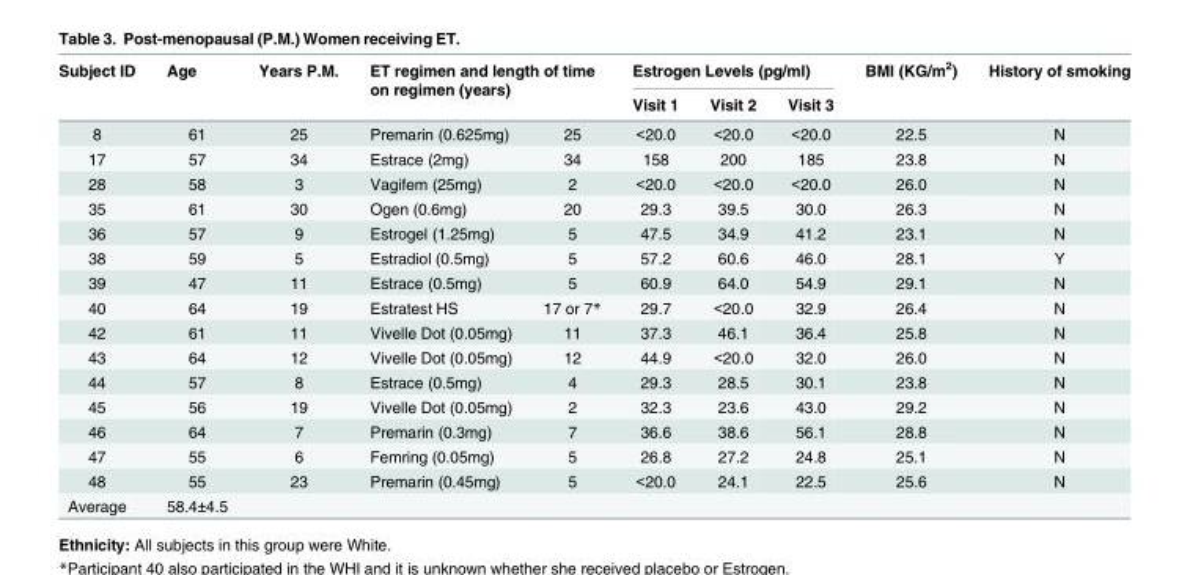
<table><thead><tr><td rowspan="3">Subject ID 8</td><td rowspan="3">Age 61</td><td rowspan="3">Years P.M. 25</td><td rowspan="2" colspan="2">ET regimen and length of time on regimen (years)</td><td colspan="3">Estrogen Levels (pg/ml)</td><td rowspan="3">BMI (KG/m<sup>2</sup>) 22.5</td><td rowspan="3">History of smoking N</td></tr><tr><td rowspan="2">Visit 1 &lt;20.0</td><td rowspan="2">Visit 2 &lt;20.0</td><td rowspan="2">Visit 3 &lt;20.0</td></tr><tr><td>Premarin (0.625mg)</td><td>25</td></tr></thead><tbody><tr><td>17</td><td>57</td><td>34</td><td>Estrace (2mg)</td><td>34</td><td>158</td><td>200</td><td>185</td><td>23.8</td><td>N</td></tr><tr><td>28</td><td>58</td><td>3</td><td>Vagifem (25mg)</td><td>2</td><td>&lt;20.0</td><td>&lt;20.0</td><td>&lt;20.0</td><td>26.0</td><td>N</td></tr><tr><td>35</td><td>61</td><td>30</td><td>Ogen (0.6mg)</td><td>20</td><td>29.3</td><td>39.5</td><td>30.0</td><td>26.3</td><td>N</td></tr><tr><td>36</td><td>57</td><td>9</td><td>Estrogel (1.25mg)</td><td>5</td><td>47.5</td><td>34.9</td><td>41.2</td><td>23.1</td><td>N</td></tr><tr><td>38</td><td>59</td><td>5</td><td>Estradiol (0.5mg)</td><td>5</td><td>57.2</td><td>60.6</td><td>46.0</td><td>28.1</td><td>Y</td></tr><tr><td>39</td><td>47</td><td>11</td><td>Estrace (0.5mg)</td><td>5</td><td>60.9</td><td>64.0</td><td>54.9</td><td>29.1</td><td>N</td></tr><tr><td>40</td><td>64</td><td>19</td><td>Estratest HS</td><td>17 or 7*</td><td>29.7</td><td>&lt;20.0</td><td>32.9</td><td>26.4</td><td>N</td></tr><tr><td>42</td><td>61</td><td>11</td><td>Vivelle Dot (0.05mg)</td><td>11</td><td>37.3</td><td>46.1</td><td>36.4</td><td>25.8</td><td>N</td></tr><tr><td>43</td><td>64</td><td>12</td><td>Vivelle Dot (0.05mg)</td><td>12</td><td>44.9</td><td>&lt;20.0</td><td>32.0</td><td>26.0</td><td>N</td></tr><tr><td>44</td><td>57</td><td>8</td><td>Estrace (0.5mg)</td><td>4</td><td>29.3</td><td>28.5</td><td>30.1</td><td>23.8</td><td>N</td></tr><tr><td>45</td><td>56</td><td>19</td><td>Vivelle Dot (0.05mg)</td><td>2</td><td>32.3</td><td>23.6</td><td>43.0</td><td>29.2</td><td>N</td></tr><tr><td>46</td><td>64</td><td>7</td><td>Premarin (0.3mg)</td><td>7</td><td>36.6</td><td>38.6</td><td>56.1</td><td>28.8</td><td>N</td></tr><tr><td>47</td><td>55</td><td>6</td><td>Femring (0.05mg)</td><td>5</td><td>26.8</td><td>27.2</td><td>24.8</td><td>25.1</td><td>N</td></tr><tr><td>48</td><td>55</td><td>23</td><td>Premarin (0.45mg)</td><td>5</td><td>&lt;20.0</td><td>24.1</td><td>22.5</td><td>25.6</td><td>N</td></tr><tr><td>Average</td><td>58.4±4.5</td><td colspan="8"></td></tr></tbody></table>